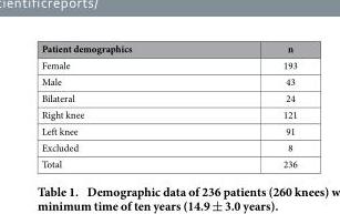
<table><thead><tr><td>Patient demographics</td><td>n</td></tr></thead><tbody><tr><td>Female</td><td>193</td></tr><tr><td>Male</td><td>43</td></tr><tr><td>Bilateral</td><td>24</td></tr><tr><td>Right knee</td><td>121</td></tr><tr><td>Left knee</td><td>91</td></tr><tr><td>Excluded</td><td>8</td></tr><tr><td>Total</td><td>236</td></tr></tbody></table>